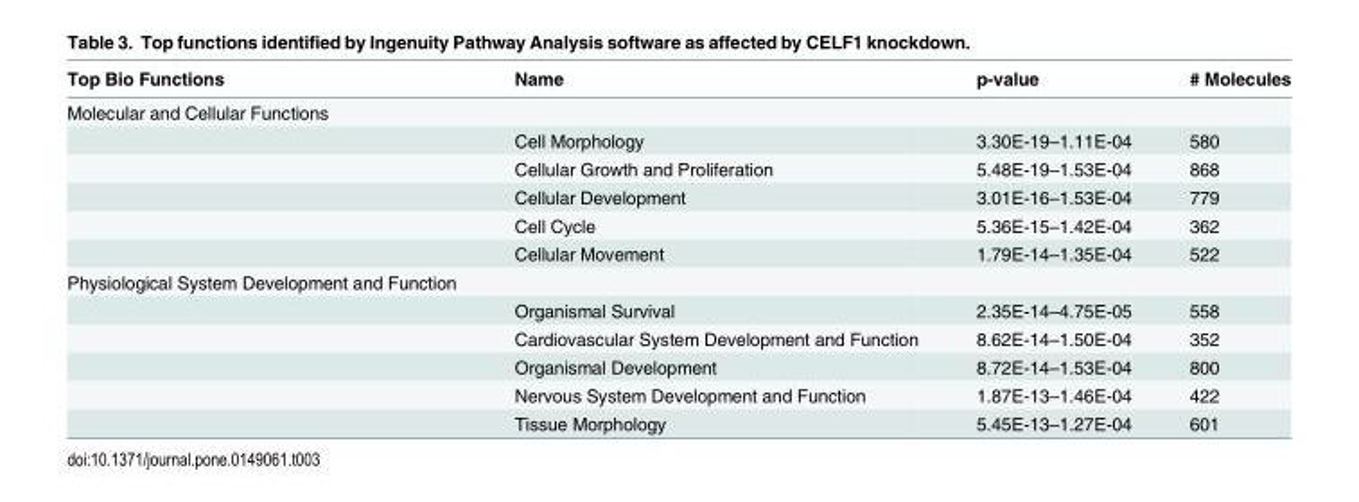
<table><thead><tr><td>Top Bio Functions</td><td>Name</td><td>p-value</td><td># Molecules</td></tr></thead><tbody><tr><td colspan="4">Molecular and Cellular Functions</td></tr><tr><td></td><td>Cell Morphology</td><td>3.30E-19–1.11E-04</td><td>580</td></tr><tr><td></td><td>Cellular Growth and Proliferation</td><td>5.48E-19–1.53E-04</td><td>868</td></tr><tr><td></td><td>Cellular Development</td><td>3.01E-16–1.53E-04</td><td>779</td></tr><tr><td></td><td>Cell Cycle</td><td>5.36E-15–1.42E-04</td><td>362</td></tr><tr><td></td><td>Cellular Movement</td><td>1.79E-14–1.35E-04</td><td>522</td></tr><tr><td colspan="4">Physiological System Development and Function</td></tr><tr><td></td><td>Organismal Survival</td><td>2.35E-14–4.75E-05</td><td>558</td></tr><tr><td></td><td>Cardiovascular System Development and Function</td><td>8.62E-14–1.50E-04</td><td>352</td></tr><tr><td></td><td>Organismal Development</td><td>8.72E-14–1.53E-04</td><td>800</td></tr><tr><td></td><td>Nervous System Development and Function</td><td>1.87E-13–1.46E-04</td><td>422</td></tr><tr><td></td><td>Tissue Morphology</td><td>5.45E-13–1.27E-04</td><td>601</td></tr></tbody></table>